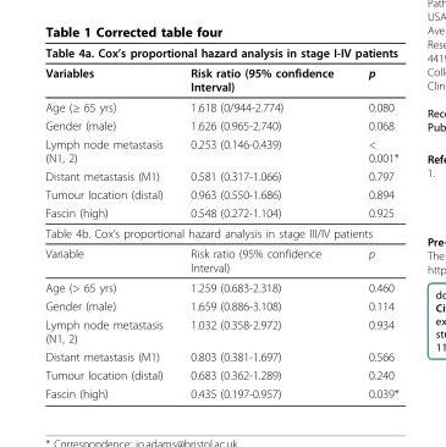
<table><thead><tr><td colspan="3">Table 4a. Cox’s proportional hazard analysis in stage I-IV patients</td></tr><tr><td>Variables</td><td>Risk ratio (95% confidence Interval)</td><td>p</td></tr></thead><tbody><tr><td>Age (≥ 65 yrs)</td><td>1.618 (0/944-2.774)</td><td>0.080</td></tr><tr><td>Gender (male)</td><td>1.626 (0.965-2.740)</td><td>0.068</td></tr><tr><td>Lymph node metastasis (N1, 2)</td><td>0.253 (0.146-0.439)</td><td>&lt; 0.001*</td></tr><tr><td>Distant metastasis (M1)</td><td>0.581 (0.317-1.066)</td><td>0.797</td></tr><tr><td>Tumour location (distal)</td><td>0.963 (0.550-1.686)</td><td>0.894</td></tr><tr><td>Fascin (high)</td><td>0.548 (0.272-1.104)</td><td>0.925</td></tr><tr><td colspan="3">Table 4b. Cox’s proportional hazard analysis in stage III/IV patients</td></tr><tr><td>Variable</td><td>Risk ratio (95% confidence Interval)</td><td>p</td></tr><tr><td>Age (&gt; 65 yrs)</td><td>1.259 (0.683-2.318)</td><td>0.460</td></tr><tr><td>Gender (male)</td><td>1.659 (0.886-3.108)</td><td>0.114</td></tr><tr><td>Lymph node metastasis (N1, 2)</td><td>1.032 (0.358-2.972)</td><td>0.934</td></tr><tr><td>Distant metastasis (M1)</td><td>0.803 (0.381-1.697)</td><td>0.566</td></tr><tr><td>Tumour location (distal)</td><td>0.683 (0.362-1.289)</td><td>0.240</td></tr><tr><td>Fascin (high)</td><td>0.435 (0.197-0.957)</td><td>0.039*</td></tr></tbody></table>